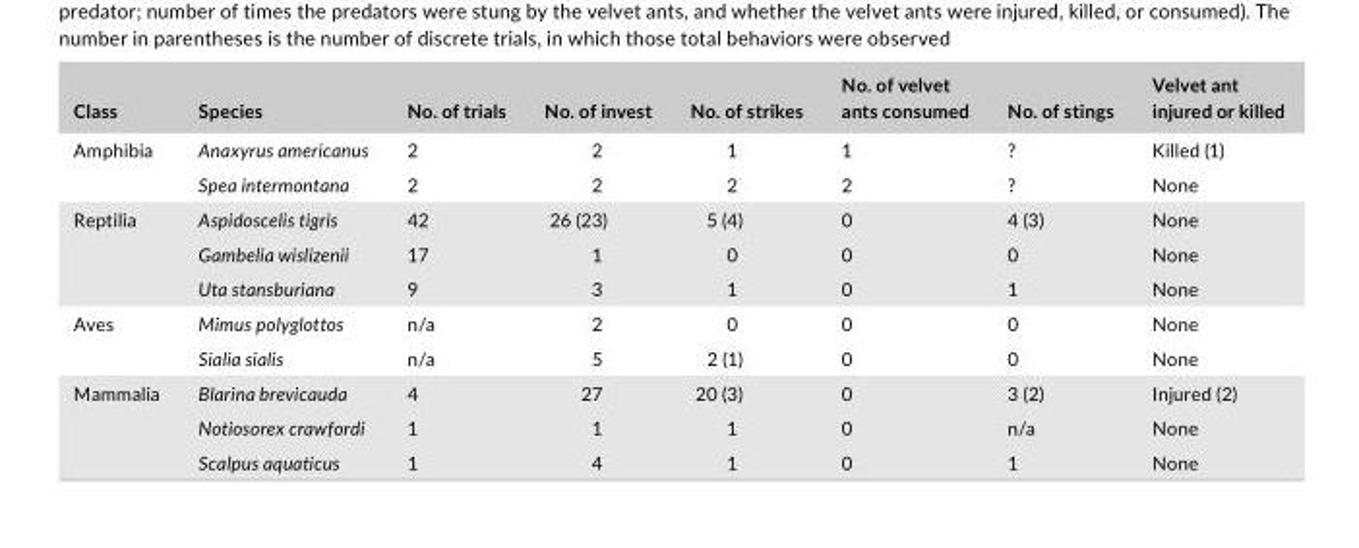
<table><thead><tr><td>Class</td><td>Species</td><td>No. of trials</td><td>No. of invest</td><td>No. of strikes</td><td>No. of velvet ants consumed</td><td>No. of stings</td><td>Velvet ant injured or killed</td></tr></thead><tbody><tr><td rowspan="2">Amphibia</td><td>Anaxyrus americanus</td><td>2</td><td>2</td><td>1</td><td>1</td><td>?</td><td>Killed (1)</td></tr><tr><td>Spea intermontana</td><td>2</td><td>2</td><td>2</td><td>2</td><td>?</td><td>None</td></tr><tr><td rowspan="3">Reptilia</td><td>Aspidoscelis tigris</td><td>42</td><td>26 (23)</td><td>5 (4)</td><td>0</td><td>4 (3)</td><td>None</td></tr><tr><td>Gambelia wislizenii</td><td>17</td><td>1</td><td>0</td><td>0</td><td>0</td><td>None</td></tr><tr><td>Uta stansburiana</td><td>9</td><td>3</td><td>1</td><td>0</td><td>1</td><td>None</td></tr><tr><td rowspan="2">Aves</td><td>Mimus polyglottos</td><td>n/a</td><td>2</td><td>0</td><td>0</td><td>0</td><td>None</td></tr><tr><td>Sialia sialis</td><td>n/a</td><td>5</td><td>2 (1)</td><td>0</td><td>0</td><td>None</td></tr><tr><td rowspan="3">Mammalia</td><td>Blarina brevicauda</td><td>4</td><td>27</td><td>20 (3)</td><td>0</td><td>3 (2)</td><td>Injured (2)</td></tr><tr><td>Notiosorex crawfordi</td><td>1</td><td>1</td><td>1</td><td>0</td><td>n/a</td><td>None</td></tr><tr><td>Scalpus aquaticus</td><td>1</td><td>4</td><td>1</td><td>0</td><td>1</td><td>None</td></tr></tbody></table>